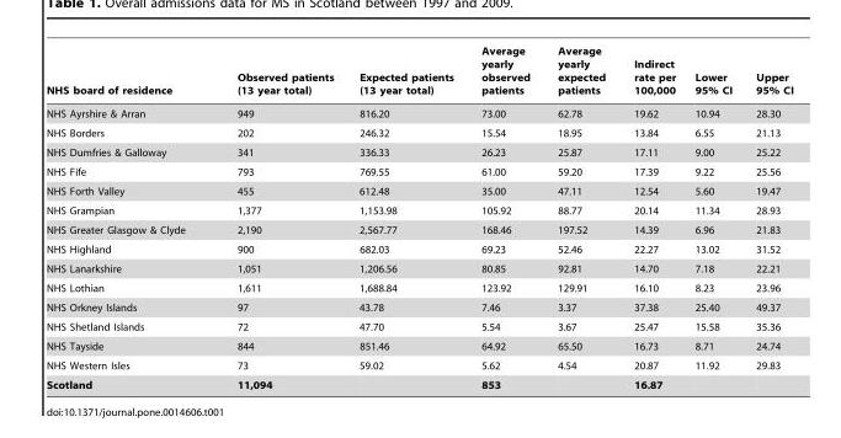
<table><thead><tr><td>NHS board of residence</td><td>Observed patients (13 year total)</td><td>Expected patients (13 year total)</td><td>Average yearly observed patients</td><td>Average yearly expected patients</td><td>Indirect rate per 100,000</td><td>Lower 95% CI</td><td>Upper 95% CI</td></tr></thead><tbody><tr><td>NHS Ayrshire &amp; Arran</td><td>949</td><td>816.20</td><td>73.00</td><td>62.78</td><td>19.62</td><td>10.94</td><td>28.30</td></tr><tr><td>NHS Borders</td><td>202</td><td>246.32</td><td>15.54</td><td>18.95</td><td>13.84</td><td>6.55</td><td>21.13</td></tr><tr><td>NHS Dumfries &amp; Galloway</td><td>341</td><td>336.33</td><td>26.23</td><td>25.87</td><td>17.11</td><td>9.00</td><td>25.22</td></tr><tr><td>NHS Fife</td><td>793</td><td>769.55</td><td>61.00</td><td>59.20</td><td>17.39</td><td>9.22</td><td>25.56</td></tr><tr><td>NHS Forth Valley</td><td>455</td><td>612.48</td><td>35.00</td><td>47.11</td><td>12.54</td><td>5.60</td><td>19.47</td></tr><tr><td>NHS Grampian</td><td>1,377</td><td>1,153.98</td><td>105.92</td><td>88.77</td><td>20.14</td><td>11.34</td><td>28.93</td></tr><tr><td>NHS Greater Glasgow &amp; Clyde</td><td>2,190</td><td>2,567.77</td><td>168.46</td><td>197.52</td><td>14.39</td><td>6.96</td><td>21.83</td></tr><tr><td>NHS Highland</td><td>900</td><td>682.03</td><td>69.23</td><td>52.46</td><td>22.27</td><td>13.02</td><td>31.52</td></tr><tr><td>NHS Lanarkshire</td><td>1,051</td><td>1,206.56</td><td>80.85</td><td>92.81</td><td>14.70</td><td>7.18</td><td>22.21</td></tr><tr><td>NHS Lothian</td><td>1,611</td><td>1,688.84</td><td>123.92</td><td>129.91</td><td>16.10</td><td>8.23</td><td>23.96</td></tr><tr><td>NHS Orkney Islands</td><td>97</td><td>43.78</td><td>7.46</td><td>3.37</td><td>37.38</td><td>25.40</td><td>49.37</td></tr><tr><td>NHS Shetland Islands</td><td>72</td><td>47.70</td><td>5.54</td><td>3.67</td><td>25.47</td><td>15.58</td><td>35.36</td></tr><tr><td>NHS Tayside</td><td>844</td><td>851.46</td><td>64.92</td><td>65.50</td><td>16.73</td><td>8.71</td><td>24.74</td></tr><tr><td>NHS Western Isles</td><td>73</td><td>59.02</td><td>5.62</td><td>4.54</td><td>20.87</td><td>11.92</td><td>29.83</td></tr><tr><td>Scotland</td><td>11,094</td><td></td><td>853</td><td></td><td>16.87</td><td></td><td></td></tr></tbody></table>